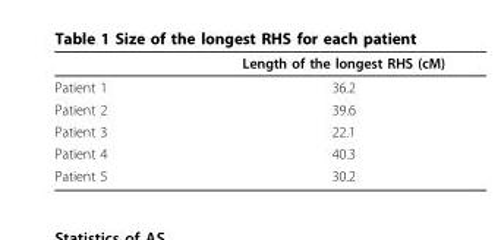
<table><thead><tr><td></td><td>Length of the longest RHS (cM)</td></tr></thead><tbody><tr><td>Patient 1</td><td>36.2</td></tr><tr><td>Patient 2</td><td>39.6</td></tr><tr><td>Patient 3</td><td>22.1</td></tr><tr><td>Patient 4</td><td>40.3</td></tr><tr><td>Patient 5</td><td>30.2</td></tr></tbody></table>